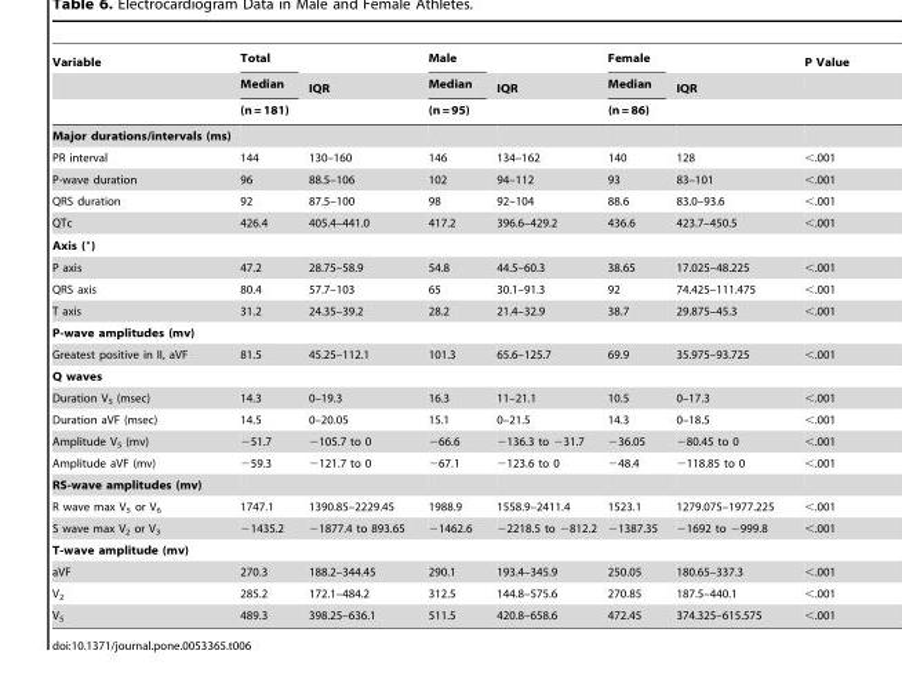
<table><thead><tr><td rowspan="3">Variable</td><td rowspan="3">Total Median (n = 181)</td><td rowspan="3">IQR</td><td rowspan="3">Male Median (n = 95)</td><td rowspan="3">IQR</td><td rowspan="3">Female Median (n = 86)</td><td rowspan="3">IQR</td><td rowspan="3">P Value</td></tr><tr></tr><tr></tr></thead><tbody><tr><td colspan="8">Major durations/intervals (ms)</td></tr><tr><td>PR interval</td><td>144</td><td>130–160</td><td>146</td><td>134–162</td><td>140</td><td>128</td><td>&lt;.001</td></tr><tr><td>P-wave duration</td><td>96</td><td>88.5–106</td><td>102</td><td>94–112</td><td>93</td><td>83–101</td><td>&lt;.001</td></tr><tr><td>QRS duration</td><td>92</td><td>87.5–100</td><td>98</td><td>92–104</td><td>88.6</td><td>83.0–93.6</td><td>&lt;.001</td></tr><tr><td>QTc</td><td>426.4</td><td>405.4–441.0</td><td>417.2</td><td>396.6–429.2</td><td>436.6</td><td>423.7–450.5</td><td>&lt;.001</td></tr><tr><td colspan="8">Axis (°)</td></tr><tr><td>P axis</td><td>47.2</td><td>28.75–58.9</td><td>54.8</td><td>44.5–60.3</td><td>38.65</td><td>17.025–48.225</td><td>&lt;.001</td></tr><tr><td>QRS axis</td><td>80.4</td><td>57.7–103</td><td>65</td><td>30.1–91.3</td><td>92</td><td>74.425–111.475</td><td>&lt;.001</td></tr><tr><td>T axis</td><td>31.2</td><td>24.35–39.2</td><td>28.2</td><td>21.4–32.9</td><td>38.7</td><td>29.875–45.3</td><td>&lt;.001</td></tr><tr><td colspan="8">P-wave amplitudes (mv)</td></tr><tr><td>Greatest positive in II, aVF</td><td>81.5</td><td>45.25–112.1</td><td>101.3</td><td>65.6–125.7</td><td>69.9</td><td>35.975–93.725</td><td>&lt;.001</td></tr><tr><td colspan="8">Q waves</td></tr><tr><td>Duration V<sub>5</sub> (msec)</td><td>14.3</td><td>0–19.3</td><td>16.3</td><td>11–21.1</td><td>10.5</td><td>0–17.3</td><td>&lt;.001</td></tr><tr><td>Duration aVF (msec)</td><td>14.5</td><td>0–20.05</td><td>15.1</td><td>0–21.5</td><td>14.3</td><td>0–18.5</td><td>&lt;.001</td></tr><tr><td>Amplitude V<sub>5</sub> (mv)</td><td>−51.7</td><td>−105.7 to 0</td><td>−66.6</td><td>−136.3 to −31.7</td><td>−36.05</td><td>−80.45 to 0</td><td>&lt;.001</td></tr><tr><td>Amplitude aVF (mv)</td><td>−59.3</td><td>−121.7 to 0</td><td>−67.1</td><td>−123.6 to 0</td><td>−48.4</td><td>−118.85 to 0</td><td>&lt;.001</td></tr><tr><td colspan="8">RS-wave amplitudes (mv)</td></tr><tr><td>R wave max V<sub>5</sub> or V<sub>6</sub></td><td>1747.1</td><td>1390.85–2229.45</td><td>1988.9</td><td>1558.9–2411.4</td><td>1523.1</td><td>1279.075–1977.225</td><td>&lt;.001</td></tr><tr><td>S wave max V<sub>2</sub> or V<sub>3</sub></td><td>−1435.2</td><td>−1877.4 to 893.65</td><td>−1462.6</td><td>−2218.5 to −812.2</td><td>−1387.35</td><td>−1692 to −999.8</td><td>&lt;.001</td></tr><tr><td colspan="8">T-wave amplitude (mv)</td></tr><tr><td>aVF</td><td>270.3</td><td>188.2–344.45</td><td>290.1</td><td>193.4–345.9</td><td>250.05</td><td>180.65–337.3</td><td>&lt;.001</td></tr><tr><td>V<sub>2</sub></td><td>285.2</td><td>172.1–484.2</td><td>312.5</td><td>144.8–575.6</td><td>270.85</td><td>187.5–440.1</td><td>&lt;.001</td></tr><tr><td>V<sub>5</sub></td><td>489.3</td><td>398.25–636.1</td><td>511.5</td><td>420.8–658.6</td><td>472.45</td><td>374.325–615.575</td><td>&lt;.001</td></tr></tbody></table>